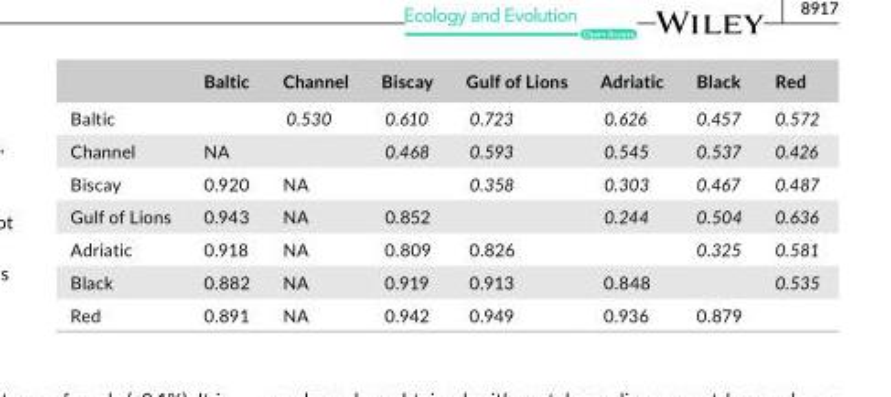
<table><thead><tr><td></td><td>Baltic</td><td>Channel</td><td>Biscay</td><td>Gulf of Lions</td><td>Adriatic</td><td>Black</td><td>Red</td></tr></thead><tbody><tr><td>Baltic</td><td></td><td>0.530</td><td>0.610</td><td>0.723</td><td>0.626</td><td>0.457</td><td>0.572</td></tr><tr><td>Channel</td><td>NA</td><td></td><td>0.468</td><td>0.593</td><td>0.545</td><td>0.537</td><td>0.426</td></tr><tr><td>Biscay</td><td>0.920</td><td>NA</td><td></td><td>0.358</td><td>0.303</td><td>0.467</td><td>0.487</td></tr><tr><td>Gulf of Lions</td><td>0.943</td><td>NA</td><td>0.852</td><td></td><td>0.244</td><td>0.504</td><td>0.636</td></tr><tr><td>Adriatic</td><td>0.918</td><td>NA</td><td>0.809</td><td>0.826</td><td></td><td>0.325</td><td>0.581</td></tr><tr><td>Black</td><td>0.882</td><td>NA</td><td>0.919</td><td>0.913</td><td>0.848</td><td></td><td>0.535</td></tr><tr><td>Red</td><td>0.891</td><td>NA</td><td>0.942</td><td>0.949</td><td>0.936</td><td>0.879</td><td></td></tr></tbody></table>